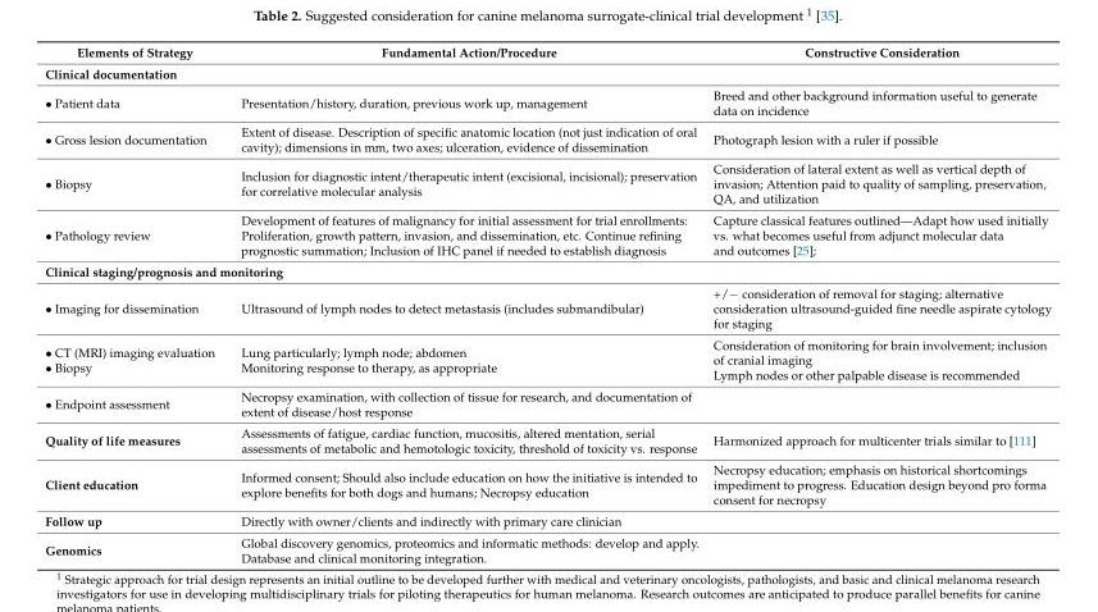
<table><thead><tr><td>Elements of Strategy</td><td>Fundamental Action/Procedure</td><td>Constructive Consideration</td></tr></thead><tbody><tr><td colspan="3">Clinical documentation</td></tr><tr><td>• Patient data</td><td>Presentation/history, duration, previous work up, management</td><td>Breed and other background information useful to generate data on incidence</td></tr><tr><td>• Gross lesion documentation</td><td>Extent of disease. Description of specific anatomic location (not just indication of oral cavity); dimensions in mm, two axes; ulceration, evidence of dissemination</td><td>Photograph lesion with a ruler if possible</td></tr><tr><td>• Biopsy</td><td>Inclusion for diagnostic intent/therapeutic intent (excisional, incisional); preservation for correlative molecular analysis</td><td>Consideration of lateral extent as well as vertical depth of invasion; Attention paid to quality of sampling, preservation, QA, and utilization</td></tr><tr><td>• Pathology review</td><td>Development of features of malignancy for initial assessment for trial enrollments: Proliferation, growth pattern, invasion, and dissemination, etc. Continue refining prognostic summation; Inclusion of IHC panel if needed to establish diagnosis</td><td>Capture classical features outlined—Adapt how used initially vs. what becomes useful from adjunct molecular data and outcomes [25];</td></tr><tr><td colspan="3">Clinical staging/prognosis and monitoring</td></tr><tr><td>• Imaging for dissemination</td><td>Ultrasound of lymph nodes to detect metastasis (includes submandibular)</td><td>+/− consideration of removal for staging; alternative consideration ultrasound-guided fine needle aspirate cytology for staging</td></tr><tr><td>• CT (MRI) imaging evaluation • Biopsy</td><td>Lung particularly; lymph node; abdomen Monitoring response to therapy, as appropriate</td><td>Consideration of monitoring for brain involvement; inclusion of cranial imaging Lymph nodes or other palpable disease is recommended</td></tr><tr><td>• Endpoint assessment</td><td>Necropsy examination, with collection of tissue for research, and documentation of extent of disease/host response</td><td></td></tr><tr><td>Quality of life measures</td><td>Assessments of fatigue, cardiac function, mucositis, altered mentation, serial assessments of metabolic and hemotologic toxicity, threshold of toxicity vs. response</td><td>Harmonized approach for multicenter trials similar to [111]</td></tr><tr><td>Client education</td><td>Informed consent; Should also include education on how the initiative is intended to explore benefits for both dogs and humans; Necropsy education</td><td>Necropsy education; emphasis on historical shortcomings impediment to progress. Education design beyond pro forma consent for necropsy</td></tr><tr><td>Follow up</td><td>Directly with owner/clients and indirectly with primary care clinician</td><td></td></tr><tr><td>Genomics</td><td>Global discovery genomics, proteomics and informatic methods: develop and apply. Database and clinical monitoring integration.</td><td></td></tr></tbody></table>